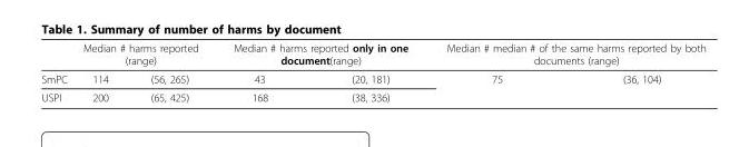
<table><thead><tr><td rowspan="2">SmPC</td><td colspan="2">Median # harms reported (range)</td><td colspan="2">Median # harms reported only in one document(range)</td><td colspan="2">Median # median # of the same harms reported by both documents (range)</td></tr><tr><td>114</td><td>(56, 265)</td><td>43</td><td>(20, 181)</td><td>75</td><td>(36, 104)</td></tr></thead><tbody><tr><td>USPI</td><td>200</td><td>(65, 425)</td><td>168</td><td>(38, 336)</td><td></td><td></td></tr></tbody></table>